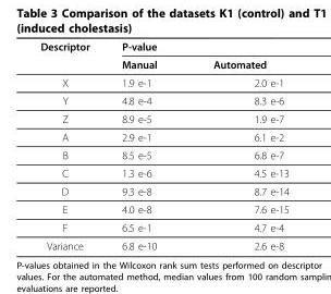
<table><thead><tr><td rowspan="2">Descriptor</td><td colspan="2">P-value</td></tr><tr><td>Manual</td><td>Automated</td></tr></thead><tbody><tr><td>X</td><td>1.9 e-1</td><td>2.0 e-1</td></tr><tr><td>Y</td><td>4.8 e-4</td><td>8.3 e-6</td></tr><tr><td>Z</td><td>8.9 e-5</td><td>1.9 e-7</td></tr><tr><td>A</td><td>2.9 e-1</td><td>6.1 e-2</td></tr><tr><td>B</td><td>8.5 e-5</td><td>6.8 e-7</td></tr><tr><td>C</td><td>1.3 e-6</td><td>4.5 e-13</td></tr><tr><td>D</td><td>9.3 e-8</td><td>8.7 e-14</td></tr><tr><td>E</td><td>4.0 e-8</td><td>7.6 e-15</td></tr><tr><td>F</td><td>6.5 e-1</td><td>4.7 e-4</td></tr><tr><td>Variance</td><td>6.8 e-10</td><td>2.6 e-8</td></tr></tbody></table>